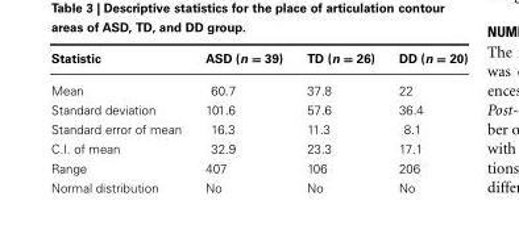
<table><thead><tr><td>Statistic</td><td>ASD (n = 39)</td><td>TD (n = 26)</td><td>DD (n = 20)</td></tr></thead><tbody><tr><td>Mean</td><td>60.7</td><td>37.8</td><td>22</td></tr><tr><td>Standard deviation</td><td>101.6</td><td>57.6</td><td>36.4</td></tr><tr><td>Standard error of mean</td><td>16.3</td><td>11.3</td><td>8.1</td></tr><tr><td>C.I. of mean</td><td>32.9</td><td>23.3</td><td>17.1</td></tr><tr><td>Range</td><td>407</td><td>106</td><td>206</td></tr><tr><td>Normal distribution</td><td>No</td><td>No</td><td>No</td></tr></tbody></table>